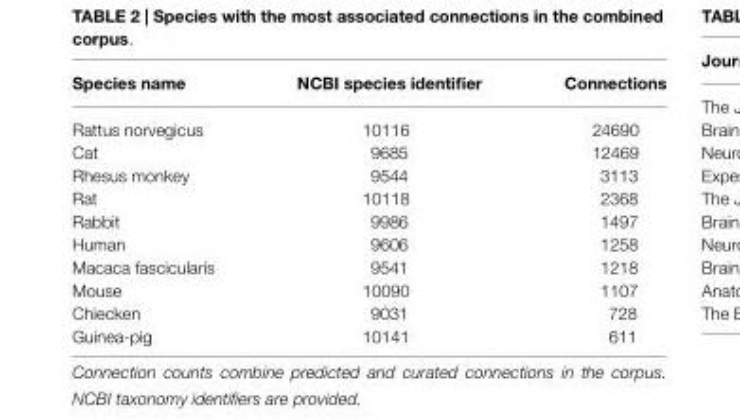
<table><thead><tr><td>Species name</td><td>NCBI species identifier</td><td>Connections</td></tr></thead><tbody><tr><td>Rattus norvegicus</td><td>10116</td><td>24690</td></tr><tr><td>Cat</td><td>9685</td><td>12469</td></tr><tr><td>Rhesus monkey</td><td>9544</td><td>3113</td></tr><tr><td>Rat</td><td>10118</td><td>2368</td></tr><tr><td>Rabbit</td><td>9986</td><td>1497</td></tr><tr><td>Human</td><td>9606</td><td>1258</td></tr><tr><td>Macaca fascicularis</td><td>9541</td><td>1218</td></tr><tr><td>Mouse</td><td>10090</td><td>1107</td></tr><tr><td>Chiecken</td><td>9031</td><td>728</td></tr><tr><td>Guinea-pig</td><td>10141</td><td>611</td></tr></tbody></table>